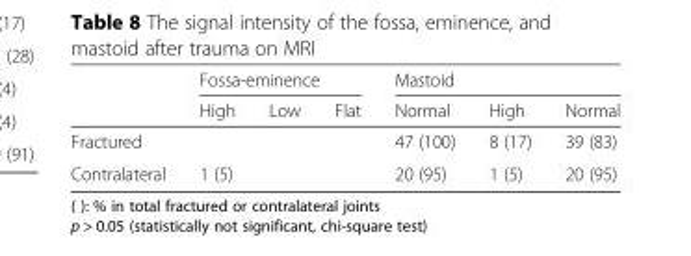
<table><thead><tr><td rowspan="2"></td><td colspan="3">Fossa-eminence</td><td colspan="3">Mastoid</td></tr><tr><td>High</td><td>Low</td><td>Flat</td><td>Normal</td><td>High</td><td>Normal</td></tr></thead><tbody><tr><td>Fractured</td><td></td><td></td><td></td><td>47 (100)</td><td>8 (17)</td><td>39 (83)</td></tr><tr><td>Contralateral</td><td>1 (5)</td><td></td><td></td><td>20 (95)</td><td>1 (5)</td><td>20 (95)</td></tr></tbody></table>